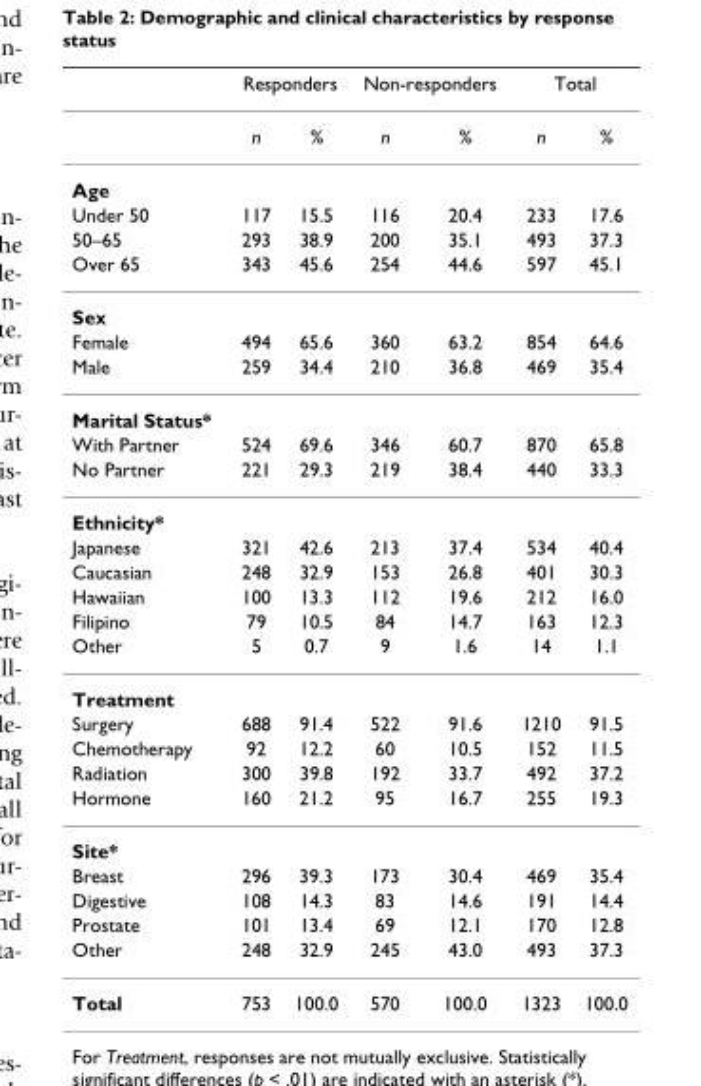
<table><thead><tr><td rowspan="2"></td><td colspan="2">Responders</td><td colspan="2">Non-responders</td><td colspan="2">Total</td></tr><tr><td>n</td><td>%</td><td>n</td><td>%</td><td>n</td><td>%</td></tr></thead><tbody><tr><td colspan="7">Age</td></tr><tr><td>Under 50</td><td>117</td><td>15.5</td><td>116</td><td>20.4</td><td>233</td><td>17.6</td></tr><tr><td>50–65</td><td>293</td><td>38.9</td><td>200</td><td>35.1</td><td>493</td><td>37.3</td></tr><tr><td>Over 65</td><td>343</td><td>45.6</td><td>254</td><td>44.6</td><td>597</td><td>45.1</td></tr><tr><td colspan="7">Sex</td></tr><tr><td>Female</td><td>494</td><td>65.6</td><td>360</td><td>63.2</td><td>854</td><td>64.6</td></tr><tr><td>Male</td><td>259</td><td>34.4</td><td>210</td><td>36.8</td><td>469</td><td>35.4</td></tr><tr><td colspan="7">Marital Status*</td></tr><tr><td>With Partner</td><td>524</td><td>69.6</td><td>346</td><td>60.7</td><td>870</td><td>65.8</td></tr><tr><td>No Partner</td><td>221</td><td>29.3</td><td>219</td><td>38.4</td><td>440</td><td>33.3</td></tr><tr><td colspan="7">Ethnicity*</td></tr><tr><td>Japanese</td><td>321</td><td>42.6</td><td>213</td><td>37.4</td><td>534</td><td>40.4</td></tr><tr><td>Caucasian</td><td>248</td><td>32.9</td><td>153</td><td>26.8</td><td>401</td><td>30.3</td></tr><tr><td>Hawaiian</td><td>100</td><td>13.3</td><td>112</td><td>19.6</td><td>212</td><td>16.0</td></tr><tr><td>Filipino</td><td>79</td><td>10.5</td><td>84</td><td>14.7</td><td>163</td><td>12.3</td></tr><tr><td>Other</td><td>5</td><td>0.7</td><td>9</td><td>1.6</td><td>14</td><td>1.1</td></tr><tr><td colspan="7">Treatment</td></tr><tr><td>Surgery</td><td>688</td><td>91.4</td><td>522</td><td>91.6</td><td>1210</td><td>91.5</td></tr><tr><td>Chemotherapy</td><td>92</td><td>12.2</td><td>60</td><td>10.5</td><td>152</td><td>11.5</td></tr><tr><td>Radiation</td><td>300</td><td>39.8</td><td>192</td><td>33.7</td><td>492</td><td>37.2</td></tr><tr><td>Hormone</td><td>160</td><td>21.2</td><td>95</td><td>16.7</td><td>255</td><td>19.3</td></tr><tr><td colspan="7">Site*</td></tr><tr><td>Breast</td><td>296</td><td>39.3</td><td>173</td><td>30.4</td><td>469</td><td>35.4</td></tr><tr><td>Digestive</td><td>108</td><td>14.3</td><td>83</td><td>14.6</td><td>191</td><td>14.4</td></tr><tr><td>Prostate</td><td>101</td><td>13.4</td><td>69</td><td>12.1</td><td>170</td><td>12.8</td></tr><tr><td>Other</td><td>248</td><td>32.9</td><td>245</td><td>43.0</td><td>493</td><td>37.3</td></tr><tr><td>Total</td><td>753</td><td>100.0</td><td>570</td><td>100.0</td><td>1323</td><td>100.0</td></tr></tbody></table>